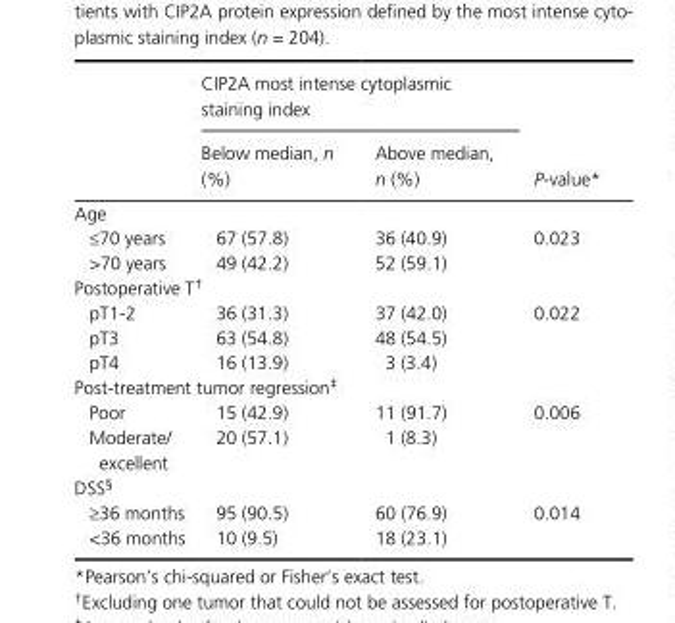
<table><thead><tr><td rowspan="2"></td><td colspan="2">CIP2A most intense cytoplasmic staining index</td><td rowspan="2">P- value*</td></tr><tr><td>Below median, n (%)</td><td>Above median, n (%)</td></tr></thead><tbody><tr><td colspan="4">Age</td></tr><tr><td>≤70 years</td><td>67 (57.8)</td><td>36 (40.9)</td><td>0.023</td></tr><tr><td>&gt;70 years</td><td>49 (42.2)</td><td>52 (59.1)</td><td></td></tr><tr><td colspan="4">Postoperative T†</td></tr><tr><td>pT1- 2</td><td>36 (31.3)</td><td>37 (42.0)</td><td>0.022</td></tr><tr><td>pT3</td><td>63 (54.8)</td><td>48 (54.5)</td><td></td></tr><tr><td>pT4</td><td>16 (13.9)</td><td>3 (3.4)</td><td></td></tr><tr><td colspan="4">Post- treatment tumor regression‡</td></tr><tr><td>Poor</td><td>15 (42.9)</td><td>11 (91.7)</td><td>0.006</td></tr><tr><td>Moderate/ excellent</td><td>20 (57.1)</td><td>1 (8.3)</td><td></td></tr><tr><td colspan="4">DSS§</td></tr><tr><td>≥36 months</td><td>95 (90.5)</td><td>60 (76.9)</td><td>0.014</td></tr><tr><td>&lt;36 months</td><td>10 (9.5)</td><td>18 (23.1)</td><td></td></tr></tbody></table>